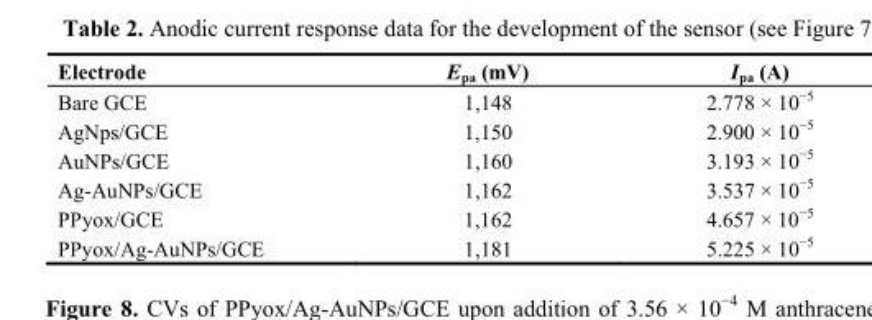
<table><thead><tr><td>Electrode</td><td>E<sub>pa</sub> (mV)</td><td>I<sub>pa</sub> (A)</td></tr></thead><tbody><tr><td>Bare GCE</td><td>1,148</td><td>2.778 × 10<sup>−5</sup></td></tr><tr><td>AgNps/GCE</td><td>1,150</td><td>2.900 × 10<sup>−5</sup></td></tr><tr><td>AuNPs/GCE</td><td>1,160</td><td>3.193 × 10<sup>−5</sup></td></tr><tr><td>Ag-AuNPs/GCE</td><td>1,162</td><td>3.537 × 10<sup>−5</sup></td></tr><tr><td>PPyox/GCE</td><td>1,162</td><td>4.657 × 10<sup>−5</sup></td></tr><tr><td>PPyox/Ag-AuNPs/GCE</td><td>1,181</td><td>5.225 × 10<sup>−5</sup></td></tr></tbody></table>